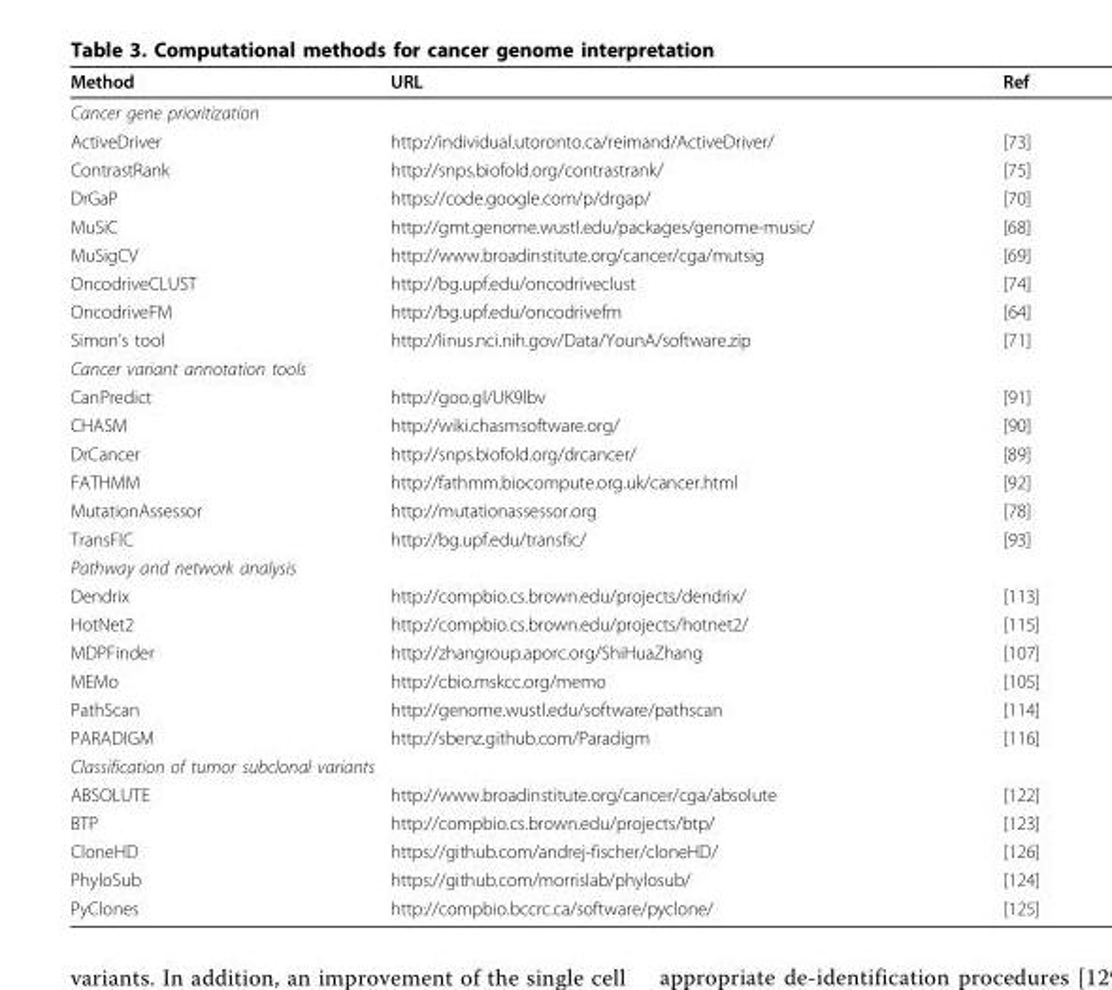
<table><thead><tr><td>Method</td><td>URL</td><td>Ref</td></tr></thead><tbody><tr><td colspan="3">Cancer gene prioritization</td></tr><tr><td>ActiveDriver</td><td>http://individual.utoronto.ca/reimand/ActiveDriver/</td><td>[73]</td></tr><tr><td>ContrastRank</td><td>http://snps.biofold.org/contrastrank/</td><td>[75]</td></tr><tr><td>DrGaP</td><td>https://code.google.com/p/drgap/</td><td>[70]</td></tr><tr><td>MuSiC</td><td>http://gmt.genome.wustl.edu/packages/genome-music/</td><td>[68]</td></tr><tr><td>MuSigCV</td><td>http://www.broadinstitute.org/cancer/cga/mutsig</td><td>[69]</td></tr><tr><td>OncodriveCLUST</td><td>http://bg.upf.edu/oncodriveclust</td><td>[74]</td></tr><tr><td>OncodriveFM</td><td>http://bg.upf.edu/oncodrivefm</td><td>[64]</td></tr><tr><td>Simon’s tool</td><td>http://linus.nci.nih.gov/Data/YounA/software.zip</td><td>[71]</td></tr><tr><td colspan="3">Cancer variant annotation tools</td></tr><tr><td>CanPredict</td><td>http://goo.gl/UK9lbv</td><td>[91]</td></tr><tr><td>CHASM</td><td>http://wiki.chasmsoftware.org/</td><td>[90]</td></tr><tr><td>DrCancer</td><td>http://snps.biofold.org/drcancer/</td><td>[89]</td></tr><tr><td>FATHMM</td><td>http://fathmm.biocompute.org.uk/cancer.html</td><td>[92]</td></tr><tr><td>MutationAssessor</td><td>http://mutationassessor.org</td><td>[78]</td></tr><tr><td>TransFIC</td><td>http://bg.upf.edu/transfic/</td><td>[93]</td></tr><tr><td colspan="3">Pathway and network analysis</td></tr><tr><td>Dendrix</td><td>http://compbio.cs.brown.edu/projects/dendrix/</td><td>[113]</td></tr><tr><td>HotNet2</td><td>http://compbio.cs.brown.edu/projects/hotnet2/</td><td>[115]</td></tr><tr><td>MDPFinder</td><td>http://zhangroup.aporc.org/ShiHuaZhang</td><td>[107]</td></tr><tr><td>MEMo</td><td>http://cbio.mskcc.org/memo</td><td>[105]</td></tr><tr><td>PathScan</td><td>http://genome.wustl.edu/software/pathscan</td><td>[114]</td></tr><tr><td>PARADIGM</td><td>http://sbenz.github.com/Paradigm</td><td>[116]</td></tr><tr><td colspan="3">Classification of tumor subclonal variants</td></tr><tr><td>ABSOLUTE</td><td>http://www.broadinstitute.org/cancer/cga/absolute</td><td>[122]</td></tr><tr><td>BTP</td><td>http://compbio.cs.brown.edu/projects/btp/</td><td>[123]</td></tr><tr><td>CloneHD</td><td>https://github.com/andrej-fischer/cloneHD/</td><td>[126]</td></tr><tr><td>PhyloSub</td><td>https://github.com/morrislab/phylosub/</td><td>[124]</td></tr><tr><td>PyClones</td><td>http://compbio.bccrc.ca/software/pyclone/</td><td>[125]</td></tr></tbody></table>